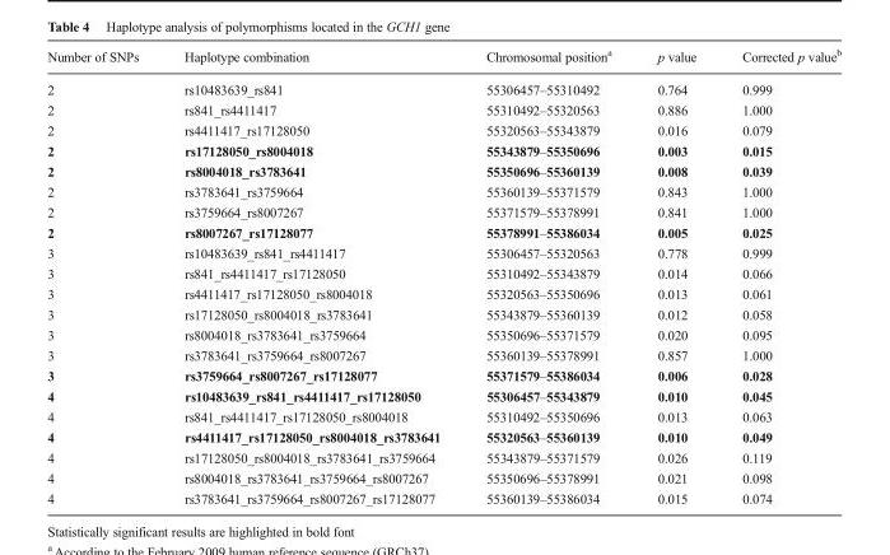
<table><thead><tr><td>Number of SNPs</td><td>Haplotype combination</td><td>Chromosomal position<sup>a</sup></td><td>p value</td><td>Corrected p value<sup>b</sup></td></tr></thead><tbody><tr><td>2</td><td>rs10483639_rs841</td><td>55306457–55310492</td><td>0.764</td><td>0.999</td></tr><tr><td>2</td><td>rs841_rs4411417</td><td>55310492–55320563</td><td>0.886</td><td>1.000</td></tr><tr><td>2</td><td>rs4411417_rs17128050</td><td>55320563–55343879</td><td>0.016</td><td>0.079</td></tr><tr><td>2</td><td>rs17128050_rs8004018</td><td>55343879–55350696</td><td>0.003</td><td>0.015</td></tr><tr><td>2</td><td>rs8004018_rs3783641</td><td>55350696–55360139</td><td>0.008</td><td>0.039</td></tr><tr><td>2</td><td>rs3783641_rs3759664</td><td>55360139–55371579</td><td>0.843</td><td>1.000</td></tr><tr><td>2</td><td>rs3759664_rs8007267</td><td>55371579–55378991</td><td>0.841</td><td>1.000</td></tr><tr><td>2</td><td>rs8007267_rs17128077</td><td>55378991–55386034</td><td>0.005</td><td>0.025</td></tr><tr><td>3</td><td>rs10483639_rs841_rs4411417</td><td>55306457–55320563</td><td>0.778</td><td>0.999</td></tr><tr><td>3</td><td>rs841_rs4411417_rs17128050</td><td>55310492–55343879</td><td>0.014</td><td>0.066</td></tr><tr><td>3</td><td>rs4411417_rs17128050_rs8004018</td><td>55320563–55350696</td><td>0.013</td><td>0.061</td></tr><tr><td>3</td><td>rs17128050_rs8004018_rs3783641</td><td>55343879–55360139</td><td>0.012</td><td>0.058</td></tr><tr><td>3</td><td>rs8004018_rs3783641_rs3759664</td><td>55350696–55371579</td><td>0.020</td><td>0.095</td></tr><tr><td>3</td><td>rs3783641_rs3759664_rs8007267</td><td>55360139–55378991</td><td>0.857</td><td>1.000</td></tr><tr><td>3</td><td>rs3759664_rs8007267_rs17128077</td><td>55371579–55386034</td><td>0.006</td><td>0.028</td></tr><tr><td>4</td><td>rs10483639_rs841_rs4411417_rs17128050</td><td>55306457–55343879</td><td>0.010</td><td>0.045</td></tr><tr><td>4</td><td>rs841_rs4411417_rs17128050_rs8004018</td><td>55310492–55350696</td><td>0.013</td><td>0.063</td></tr><tr><td>4</td><td>rs4411417_rs17128050_rs8004018_rs3783641</td><td>55320563–55360139</td><td>0.010</td><td>0.049</td></tr><tr><td>4</td><td>rs17128050_rs8004018_rs3783641_rs3759664</td><td>55343879–55371579</td><td>0.026</td><td>0.119</td></tr><tr><td>4</td><td>rs8004018_rs3783641_rs3759664_rs8007267</td><td>55350696–55378991</td><td>0.021</td><td>0.098</td></tr><tr><td>4</td><td>rs3783641_rs3759664_rs8007267_rs17128077</td><td>55360139–55386034</td><td>0.015</td><td>0.074</td></tr></tbody></table>